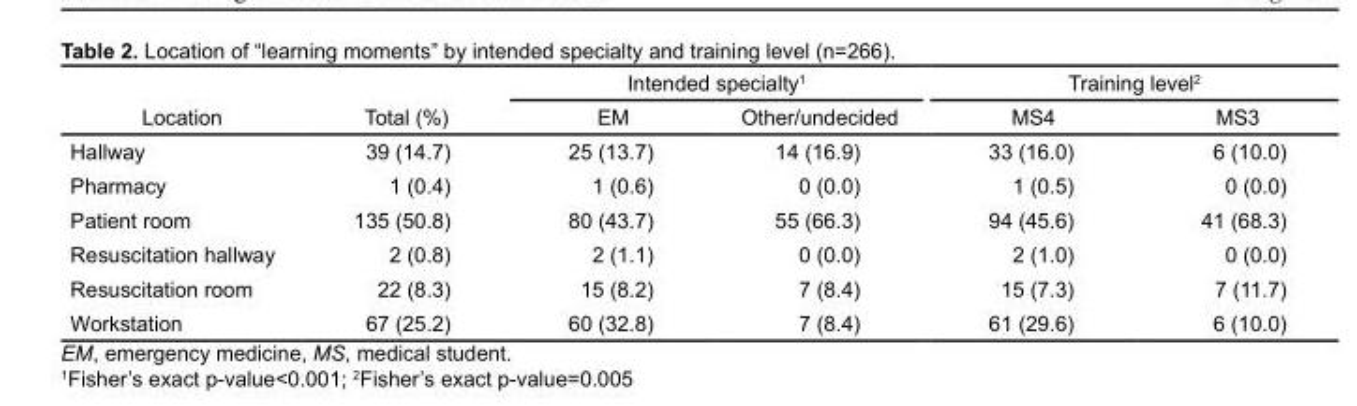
<table><thead><tr><td rowspan="2">Location</td><td rowspan="2">Total (%)</td><td colspan="2">Intended specialty<sup>1</sup></td><td colspan="2">Training level<sup>2</sup></td></tr><tr><td>EM</td><td>Other/undecided</td><td>MS4</td><td>MS3</td></tr></thead><tbody><tr><td>Hallway</td><td>39 (14.7)</td><td>25 (13.7)</td><td>14 (16.9)</td><td>33 (16.0)</td><td>6 (10.0)</td></tr><tr><td>Pharmacy</td><td>1 (0.4)</td><td>1 (0.6)</td><td>0 (0.0)</td><td>1 (0.5)</td><td>0 (0.0)</td></tr><tr><td>Patient room</td><td>135 (50.8)</td><td>80 (43.7)</td><td>55 (66.3)</td><td>94 (45.6)</td><td>41 (68.3)</td></tr><tr><td>Resuscitation hallway</td><td>2 (0.8)</td><td>2 (1.1)</td><td>0 (0.0)</td><td>2 (1.0)</td><td>0 (0.0)</td></tr><tr><td>Resuscitation room</td><td>22 (8.3)</td><td>15 (8.2)</td><td>7 (8.4)</td><td>15 (7.3)</td><td>7 (11.7)</td></tr><tr><td>Workstation</td><td>67 (25.2)</td><td>60 (32.8)</td><td>7 (8.4)</td><td>61 (29.6)</td><td>6 (10.0)</td></tr></tbody></table>